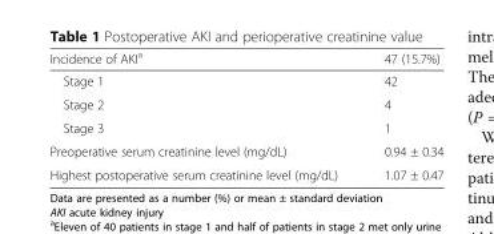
<table><thead><tr><td>Incidence of AKI<sup>a</sup></td><td>47 (15.7%)</td></tr></thead><tbody><tr><td>Stage 1</td><td>42</td></tr><tr><td>Stage 2</td><td>4</td></tr><tr><td>Stage 3</td><td>1</td></tr><tr><td>Preoperative serum creatinine level (mg/dL)</td><td>0.94 ± 0.34</td></tr><tr><td>Highest postoperative serum creatinine level (mg/dL)</td><td>1.07 ± 0.47</td></tr></tbody></table>